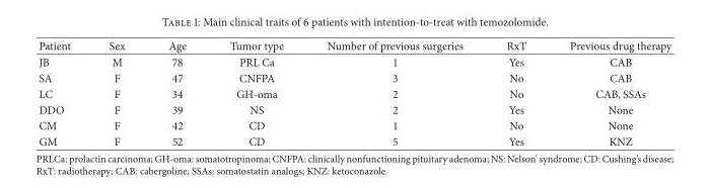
<table><thead><tr><td>Patient</td><td>Sex</td><td>Age</td><td>Tumor type</td><td>Number of previous surgeries</td><td>RxT</td><td>Previous drug therapy</td></tr></thead><tbody><tr><td>JB</td><td>M</td><td>78</td><td>PRL Ca</td><td>1</td><td>Yes</td><td>CAB</td></tr><tr><td>SA</td><td>F</td><td>47</td><td>CNFPA</td><td>3</td><td>No</td><td>CAB</td></tr><tr><td>LC</td><td>F</td><td>34</td><td>GH-oma</td><td>2</td><td>No</td><td>CAB, SSAs</td></tr><tr><td>DDO</td><td>F</td><td>39</td><td>NS</td><td>2</td><td>Yes</td><td>None</td></tr><tr><td>CM</td><td>F</td><td>42</td><td>CD</td><td>1</td><td>No</td><td>None</td></tr><tr><td>GM</td><td>F</td><td>52</td><td>CD</td><td>5</td><td>Yes</td><td>KNZ</td></tr></tbody></table>